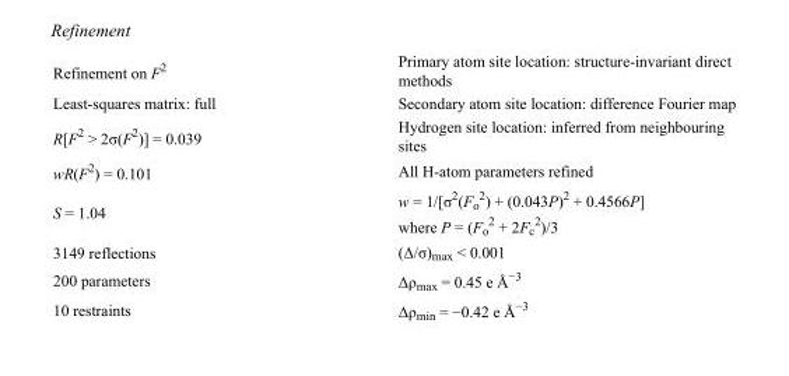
<table><tbody><tr><td>Refinement on F<sup>2</sup></td><td>Primary atom site location: structure-invariant direct methods</td></tr><tr><td>Least-squares matrix: full</td><td>Secondary atom site location: difference Fourier map</td></tr><tr><td>R[F<sup>2</sup> &gt; 2σ(F<sup>2</sup>)] = 0.039</td><td>Hydrogen site location: inferred from neighbouring sites</td></tr><tr><td>wR(F<sup>2</sup>) = 0.101</td><td>All H-atom parameters refined</td></tr><tr><td>S = 1.04</td><td>w = 1/[σ<sup>2</sup>(F<sub>o</sub> <sup>2</sup>) + (0.043P)<sup>2</sup> + 0.4566P] where P = (F<sub>o</sub> <sup>2</sup> + 2F<sub>c</sub> <sup>2</sup>)/3</td></tr><tr><td>3149 reflections</td><td>(Δ/σ)<sub>max</sub> &lt; 0.001</td></tr><tr><td>200 parameters</td><td>Δρ<sub>max</sub> = 0.45 e Å<sup>−3</sup></td></tr><tr><td>10 restraints</td><td>Δρ<sub>min</sub> = −0.42 e Å<sup>−3</sup></td></tr></tbody></table>